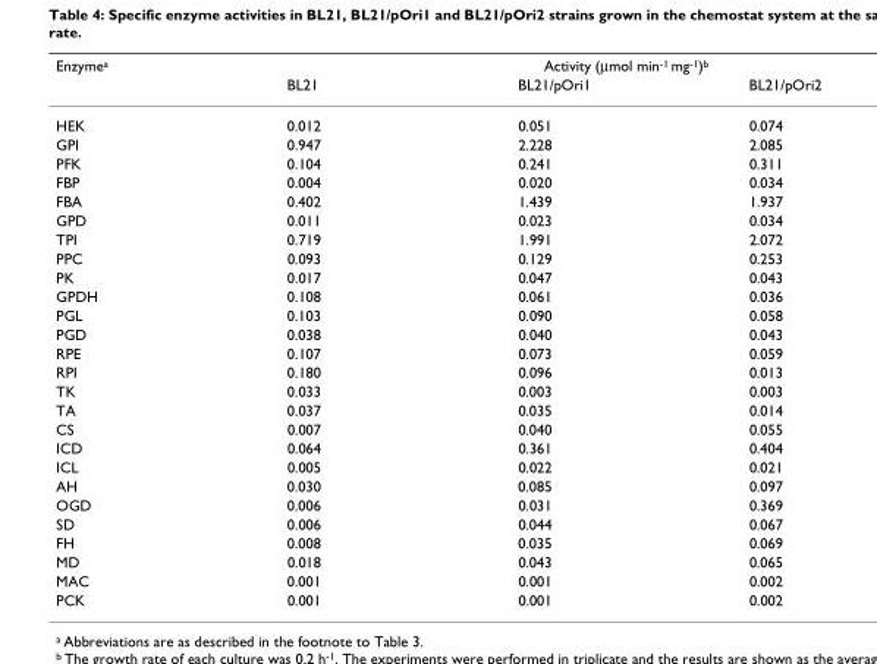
<table><thead><tr><td rowspan="2">Enzyme<sup>a</sup></td><td colspan="3">Activity (μmol min<sup>-1</sup> mg<sup>-1</sup>)<sup>b</sup></td></tr><tr><td>BL21</td><td>BL21/pOri1</td><td>BL21/pOri2</td></tr></thead><tbody><tr><td>HEK</td><td>0.012</td><td>0.051</td><td>0.074</td></tr><tr><td>GPI</td><td>0.947</td><td>2.228</td><td>2.085</td></tr><tr><td>PFK</td><td>0.104</td><td>0.241</td><td>0.311</td></tr><tr><td>FBP</td><td>0.004</td><td>0.020</td><td>0.034</td></tr><tr><td>FBA</td><td>0.402</td><td>1.439</td><td>1.937</td></tr><tr><td>GPD</td><td>0.011</td><td>0.023</td><td>0.034</td></tr><tr><td>TPI</td><td>0.719</td><td>1.991</td><td>2.072</td></tr><tr><td>PPC</td><td>0.093</td><td>0.129</td><td>0.253</td></tr><tr><td>PK</td><td>0.017</td><td>0.047</td><td>0.043</td></tr><tr><td>GPDH</td><td>0.108</td><td>0.061</td><td>0.036</td></tr><tr><td>PGL</td><td>0.103</td><td>0.090</td><td>0.058</td></tr><tr><td>PGD</td><td>0.038</td><td>0.040</td><td>0.043</td></tr><tr><td>RPE</td><td>0.107</td><td>0.073</td><td>0.059</td></tr><tr><td>RPI</td><td>0.180</td><td>0.096</td><td>0.013</td></tr><tr><td>TK</td><td>0.033</td><td>0.003</td><td>0.003</td></tr><tr><td>TA</td><td>0.037</td><td>0.035</td><td>0.014</td></tr><tr><td>CS</td><td>0.007</td><td>0.040</td><td>0.055</td></tr><tr><td>ICD</td><td>0.064</td><td>0.361</td><td>0.404</td></tr><tr><td>ICL</td><td>0.005</td><td>0.022</td><td>0.021</td></tr><tr><td>AH</td><td>0.030</td><td>0.085</td><td>0.097</td></tr><tr><td>OGD</td><td>0.006</td><td>0.031</td><td>0.369</td></tr><tr><td>SD</td><td>0.006</td><td>0.044</td><td>0.067</td></tr><tr><td>FH</td><td>0.008</td><td>0.035</td><td>0.069</td></tr><tr><td>MD</td><td>0.018</td><td>0.043</td><td>0.065</td></tr><tr><td>MAC</td><td>0.001</td><td>0.001</td><td>0.002</td></tr><tr><td>PCK</td><td>0.001</td><td>0.001</td><td>0.002</td></tr></tbody></table>